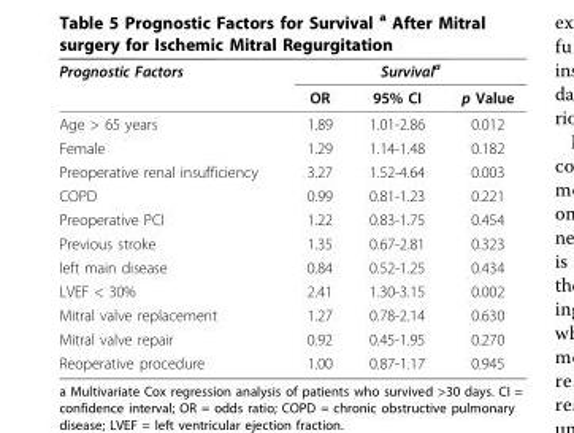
<table><thead><tr><td rowspan="2">Prognostic Factors</td><td colspan="3">Survival<sup>a</sup></td></tr><tr><td>OR</td><td>95% CI</td><td>p Value</td></tr></thead><tbody><tr><td>Age &gt; 65 years</td><td>1.89</td><td>1.01-2.86</td><td>0.012</td></tr><tr><td>Female</td><td>1.29</td><td>1.14-1.48</td><td>0.182</td></tr><tr><td>Preoperative renal insufficiency</td><td>3.27</td><td>1.52-4.64</td><td>0.003</td></tr><tr><td>COPD</td><td>0.99</td><td>0.81-1.23</td><td>0.221</td></tr><tr><td>Preoperative PCI</td><td>1.22</td><td>0.83-1.75</td><td>0.454</td></tr><tr><td>Previous stroke</td><td>1.35</td><td>0.67-2.81</td><td>0.323</td></tr><tr><td>left main disease</td><td>0.84</td><td>0.52-1.25</td><td>0.434</td></tr><tr><td>LVEF &lt; 30%</td><td>2.41</td><td>1.30-3.15</td><td>0.002</td></tr><tr><td>Mitral valve replacement</td><td>1.27</td><td>0.78-2.14</td><td>0.630</td></tr><tr><td>Mitral valve repair</td><td>0.92</td><td>0.45-1.95</td><td>0.270</td></tr><tr><td>Reoperative procedure</td><td>1.00</td><td>0.87-1.17</td><td>0.945</td></tr></tbody></table>